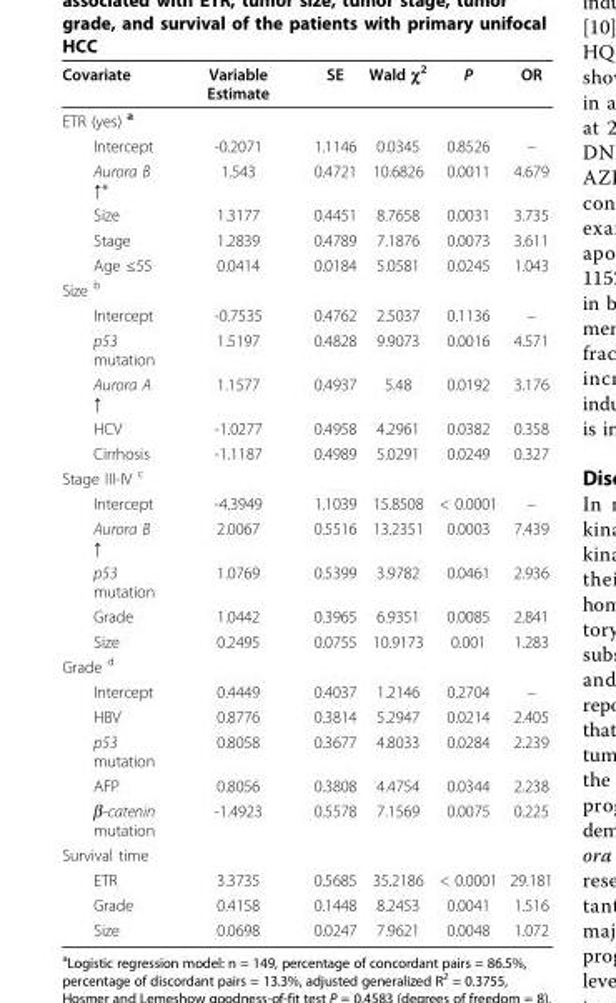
<table><thead><tr><td>Covariate</td><td>Variable Estimate</td><td>SE</td><td>Wald χ<sup>2</sup></td><td>P</td><td>OR</td></tr></thead><tbody><tr><td colspan="6">ETR (yes) <sup>a</sup></td></tr><tr><td>Intercept</td><td>-0.2071</td><td>1.1146</td><td>0.0345</td><td>0.8526</td><td>–</td></tr><tr><td>Aurora B ↑*</td><td>1.543</td><td>0.4721</td><td>10.6826</td><td>0.0011</td><td>4.679</td></tr><tr><td>Size</td><td>1.3177</td><td>0.4451</td><td>8.7658</td><td>0.0031</td><td>3.735</td></tr><tr><td>Stage</td><td>1.2839</td><td>0.4789</td><td>7.1876</td><td>0.0073</td><td>3.611</td></tr><tr><td>Age ≤55</td><td>0.0414</td><td>0.0184</td><td>5.0581</td><td>0.0245</td><td>1.043</td></tr><tr><td colspan="6">Size <sup>b</sup></td></tr><tr><td>Intercept</td><td>-0.7535</td><td>0.4762</td><td>2.5037</td><td>0.1136</td><td>–</td></tr><tr><td>p53 mutation</td><td>1.5197</td><td>0.4828</td><td>9.9073</td><td>0.0016</td><td>4.571</td></tr><tr><td>Aurora A ↑</td><td>1.1577</td><td>0.4937</td><td>5.48</td><td>0.0192</td><td>3.176</td></tr><tr><td>HCV</td><td>-1.0277</td><td>0.4958</td><td>4.2961</td><td>0.0382</td><td>0.358</td></tr><tr><td>Cirrhosis</td><td>-1.1187</td><td>0.4989</td><td>5.0291</td><td>0.0249</td><td>0.327</td></tr><tr><td colspan="6">Stage III-IV <sup>c</sup></td></tr><tr><td>Intercept</td><td>-4.3949</td><td>1.1039</td><td>15.8508</td><td>&lt; 0.0001</td><td>–</td></tr><tr><td>Aurora B ↑</td><td>2.0067</td><td>0.5516</td><td>13.2351</td><td>0.0003</td><td>7.439</td></tr><tr><td>p53 mutation</td><td>1.0769</td><td>0.5399</td><td>3.9782</td><td>0.0461</td><td>2.936</td></tr><tr><td>Grade</td><td>1.0442</td><td>0.3965</td><td>6.9351</td><td>0.0085</td><td>2.841</td></tr><tr><td>Size</td><td>0.2495</td><td>0.0755</td><td>10.9173</td><td>0.001</td><td>1.283</td></tr><tr><td colspan="6">Grade <sup>d</sup></td></tr><tr><td>Intercept</td><td>0.4449</td><td>0.4037</td><td>1.2146</td><td>0.2704</td><td>–</td></tr><tr><td>HBV</td><td>0.8776</td><td>0.3814</td><td>5.2947</td><td>0.0214</td><td>2.405</td></tr><tr><td>p53 mutation</td><td>0.8058</td><td>0.3677</td><td>4.8033</td><td>0.0284</td><td>2.239</td></tr><tr><td>AFP</td><td>0.8056</td><td>0.3808</td><td>4.4754</td><td>0.0344</td><td>2.238</td></tr><tr><td>β-catenin mutation</td><td>-1.4923</td><td>0.5578</td><td>7.1569</td><td>0.0075</td><td>0.225</td></tr><tr><td colspan="6">Survival time</td></tr><tr><td>ETR</td><td>3.3735</td><td>0.5685</td><td>35.2186</td><td>&lt; 0.0001</td><td>29.181</td></tr><tr><td>Grade</td><td>0.4158</td><td>0.1448</td><td>8.2453</td><td>0.0041</td><td>1.516</td></tr><tr><td>Size</td><td>0.0698</td><td>0.0247</td><td>7.9621</td><td>0.0048</td><td>1.072</td></tr></tbody></table>